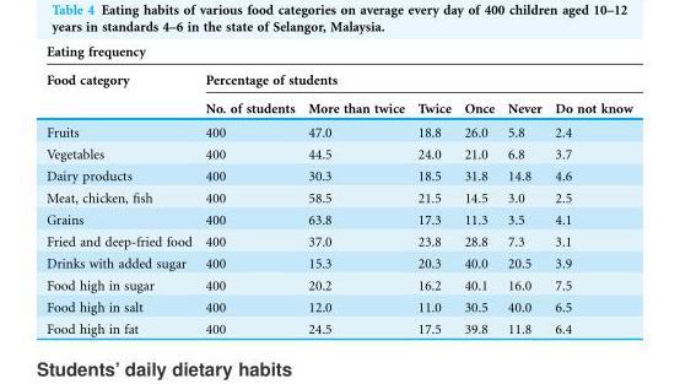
<table><thead><tr><td colspan="7">Eating frequency</td></tr><tr><td rowspan="2">Food category</td><td colspan="6">Percentage of students</td></tr><tr><td>No. of students</td><td>More than twice</td><td>Twice</td><td>Once</td><td>Never</td><td>Do not know</td></tr></thead><tbody><tr><td>Fruits</td><td>400</td><td>47.0</td><td>18.8</td><td>26.0</td><td>5.8</td><td>2.4</td></tr><tr><td>Vegetables</td><td>400</td><td>44.5</td><td>24.0</td><td>21.0</td><td>6.8</td><td>3.7</td></tr><tr><td>Dairy products</td><td>400</td><td>30.3</td><td>18.5</td><td>31.8</td><td>14.8</td><td>4.6</td></tr><tr><td>Meat, chicken, fish</td><td>400</td><td>58.5</td><td>21.5</td><td>14.5</td><td>3.0</td><td>2.5</td></tr><tr><td>Grains</td><td>400</td><td>63.8</td><td>17.3</td><td>11.3</td><td>3.5</td><td>4.1</td></tr><tr><td>Fried and deep-fried food</td><td>400</td><td>37.0</td><td>23.8</td><td>28.8</td><td>7.3</td><td>3.1</td></tr><tr><td>Drinks with added sugar</td><td>400</td><td>15.3</td><td>20.3</td><td>40.0</td><td>20.5</td><td>3.9</td></tr><tr><td>Food high in sugar</td><td>400</td><td>20.2</td><td>16.2</td><td>40.1</td><td>16.0</td><td>7.5</td></tr><tr><td>Food high in salt</td><td>400</td><td>12.0</td><td>11.0</td><td>30.5</td><td>40.0</td><td>6.5</td></tr><tr><td>Food high in fat</td><td>400</td><td>24.5</td><td>17.5</td><td>39.8</td><td>11.8</td><td>6.4</td></tr></tbody></table>